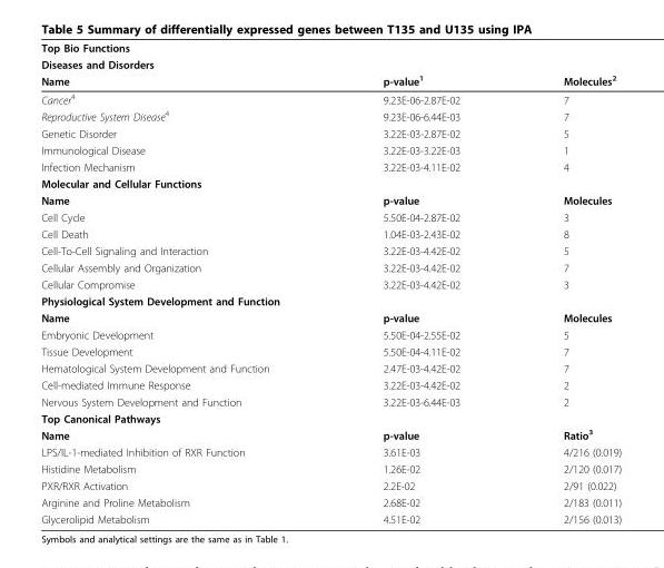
<table><thead><tr><td rowspan="3">Top Bio Functions Diseases and Disorders Name</td><td rowspan="3">p-value<sup>1</sup></td><td rowspan="3">Molecules<sup>2</sup></td></tr><tr></tr><tr></tr></thead><tbody><tr><td>Cancer<sup>4</sup></td><td>9.23E-06-2.87E-02</td><td>7</td></tr><tr><td>Reproductive System Disease<sup>4</sup></td><td>9.23E-06-6.44E-03</td><td>7</td></tr><tr><td>Genetic Disorder</td><td>3.22E-03-2.87E-02</td><td>5</td></tr><tr><td>Immunological Disease</td><td>3.22E-03-3.22E-03</td><td>1</td></tr><tr><td>Infection Mechanism</td><td>3.22E-03-4.11E-02</td><td>4</td></tr><tr><td colspan="3">Molecular and Cellular Functions</td></tr><tr><td>Name</td><td>p-value</td><td>Molecules</td></tr><tr><td>Cell Cycle</td><td>5.50E-04-2.87E-02</td><td>3</td></tr><tr><td>Cell Death</td><td>1.04E-03-2.43E-02</td><td>8</td></tr><tr><td>Cell-To-Cell Signaling and Interaction</td><td>3.22E-03-4.42E-02</td><td>5</td></tr><tr><td>Cellular Assembly and Organization</td><td>3.22E-03-4.42E-02</td><td>7</td></tr><tr><td>Cellular Compromise</td><td>3.22E-03-4.42E-02</td><td>3</td></tr><tr><td colspan="3">Physiological System Development and Function</td></tr><tr><td>Name</td><td>p-value</td><td>Molecules</td></tr><tr><td>Embryonic Development</td><td>5.50E-04-2.55E-02</td><td>5</td></tr><tr><td>Tissue Development</td><td>5.50E-04-4.11E-02</td><td>7</td></tr><tr><td>Hematological System Development and Function</td><td>2.47E-03-4.42E-02</td><td>7</td></tr><tr><td>Cell-mediated Immune Response</td><td>3.22E-03-4.42E-02</td><td>2</td></tr><tr><td>Nervous System Development and Function</td><td>3.22E-03-6.44E-03</td><td>2</td></tr><tr><td colspan="3">Top Canonical Pathways</td></tr><tr><td>Name</td><td>p-value</td><td>Ratio<sup>3</sup></td></tr><tr><td>LPS/IL-1-mediated Inhibition of RXR Function</td><td>3.61E-03</td><td>4/216 (0.019)</td></tr><tr><td>Histidine Metabolism</td><td>1.26E-02</td><td>2/120 (0.017)</td></tr><tr><td>PXR/RXR Activation</td><td>2.2E-02</td><td>2/91 (0.022)</td></tr><tr><td>Arginine and Proline Metabolism</td><td>2.68E-02</td><td>2/183 (0.011)</td></tr><tr><td>Glycerolipid Metabolism</td><td>4.51E-02</td><td>2/156 (0.013)</td></tr></tbody></table>